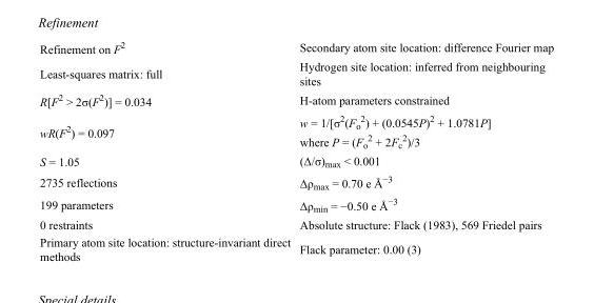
<table><tbody><tr><td>Refinement on F<sup>2</sup></td><td>Secondary atom site location: difference Fourier map</td></tr><tr><td>Least-squares matrix: full</td><td>Hydrogen site location: inferred from neighbouring sites</td></tr><tr><td>R[F<sup>2</sup> &gt; 2σ(F<sup>2</sup>)] = 0.034</td><td>H-atom parameters constrained</td></tr><tr><td>wR(F<sup>2</sup>) = 0.097</td><td>w = 1/[σ<sup>2</sup>(F<sub>o</sub> <sup>2</sup>) + (0.0545P)<sup>2</sup> + 1.0781P] where P = (F<sub>o</sub> <sup>2</sup> + 2F<sub>c</sub> <sup>2</sup>)/3</td></tr><tr><td>S = 1.05</td><td>(Δ/σ)<sub>max</sub> &lt; 0.001</td></tr><tr><td>2735 reflections</td><td>Δρ<sub>max</sub> = 0.70 e Å<sup>−3</sup></td></tr><tr><td>199 parameters</td><td>Δρ<sub>min</sub> = −0.50 e Å<sup>−3</sup></td></tr><tr><td>0 restraints</td><td>Absolute structure: Flack (1983), 569 Friedel pairs</td></tr><tr><td>Primary atom site location: structure-invariant direct methods</td><td>Flack parameter: 0.00 (3)</td></tr></tbody></table>